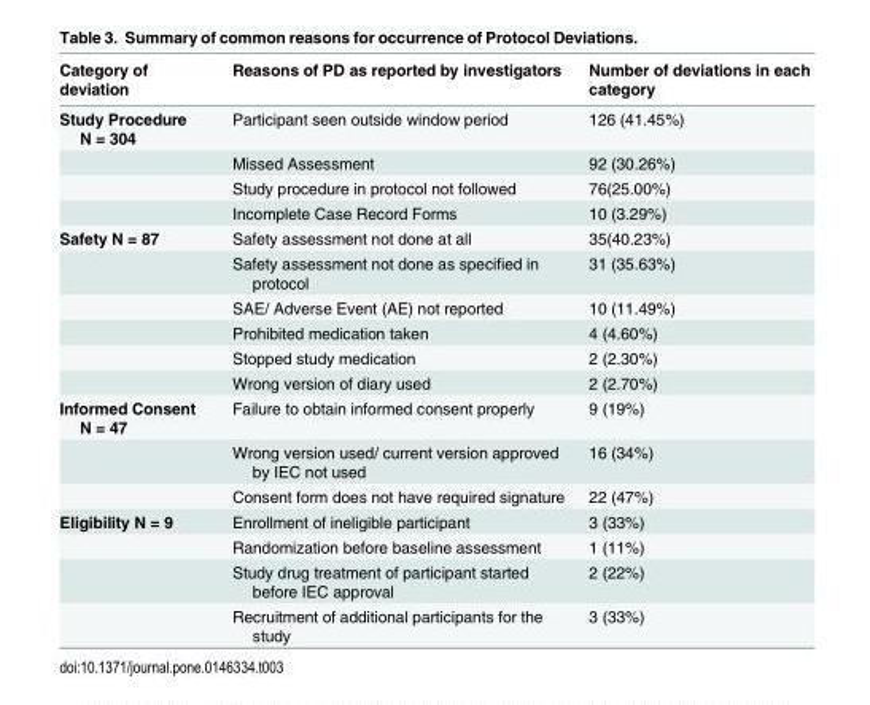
<table><thead><tr><td>Category of deviation</td><td>Reasons of PD as reported by investigators</td><td>Number of deviations in each category</td></tr></thead><tbody><tr><td rowspan="4">Study Procedure N = 304</td><td>Participant seen outside window period</td><td>126 (41.45%)</td></tr><tr><td>Missed Assessment</td><td>92 (30.26%)</td></tr><tr><td>Study procedure in protocol not followed</td><td>76(25.00%)</td></tr><tr><td>Incomplete Case Record Forms</td><td>10 (3.29%)</td></tr><tr><td rowspan="6">Safety N = 87</td><td>Safety assessment not done at all</td><td>35(40.23%)</td></tr><tr><td>Safety assessment not done as specified in protocol</td><td>31 (35.63%)</td></tr><tr><td>SAE/ Adverse Event (AE) not reported</td><td>10 (11.49%)</td></tr><tr><td>Prohibited medication taken</td><td>4 (4.60%)</td></tr><tr><td>Stopped study medication</td><td>2 (2.30%)</td></tr><tr><td>Wrong version of diary used</td><td>2 (2.70%)</td></tr><tr><td rowspan="3">Informed Consent N = 47</td><td>Failure to obtain informed consent properly</td><td>9 (19%)</td></tr><tr><td>Wrong version used/ current version approved by IEC not used</td><td>16 (34%)</td></tr><tr><td>Consent form does not have required signature</td><td>22 (47%)</td></tr><tr><td rowspan="4">Eligibility N = 9</td><td>Enrollment of ineligible participant</td><td>3 (33%)</td></tr><tr><td>Randomization before baseline assessment</td><td>1 (11%)</td></tr><tr><td>Study drug treatment of participant started before IEC approval</td><td>2 (22%)</td></tr><tr><td>Recruitment of additional participants for the study</td><td>3 (33%)</td></tr></tbody></table>